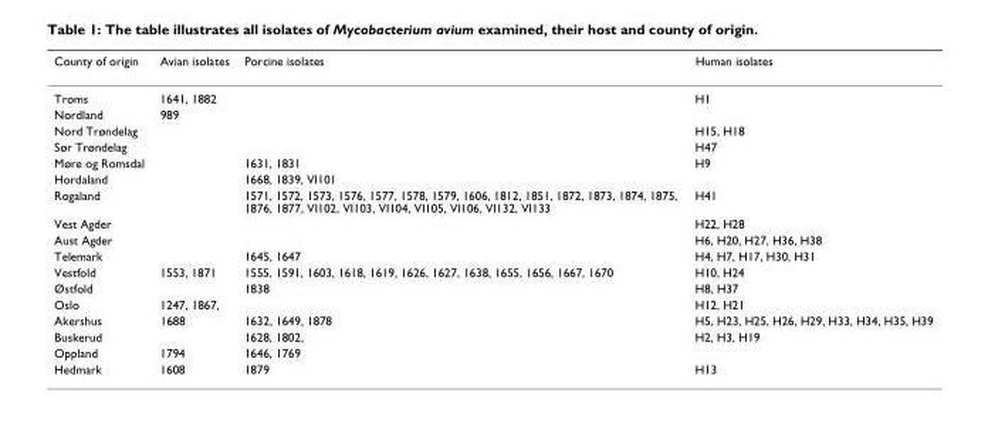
<table><thead><tr><td>County of origin</td><td>Avian isolates</td><td>Porcine isolates</td><td>Human isolates</td></tr></thead><tbody><tr><td>Troms</td><td>1641, 1882</td><td></td><td>H1</td></tr><tr><td>Nordland</td><td>989</td><td></td><td></td></tr><tr><td>Nord Trøndelag</td><td></td><td></td><td>H15, H18</td></tr><tr><td>Sør Trøndelag</td><td></td><td></td><td>H47</td></tr><tr><td>Møre og Romsdal</td><td></td><td>1631, 1831</td><td>H9</td></tr><tr><td>Hordaland</td><td></td><td>1668, 1839, VI101</td><td></td></tr><tr><td>Rogaland</td><td></td><td>1571, 1572, 1573, 1576, 1577, 1578, 1579, 1606, 1812, 1851, 1872, 1873, 1874, 1875, 1876, 1877, VI102, VI103, VI104, VI105, VI106, VI132, VI133</td><td>H41</td></tr><tr><td>Vest Agder</td><td></td><td></td><td>H22, H28</td></tr><tr><td>Aust Agder</td><td></td><td></td><td>H6, H20, H27, H36, H38</td></tr><tr><td>Telemark</td><td></td><td>1645, 1647</td><td>H4, H7, H17, H30, H31</td></tr><tr><td>Vestfold</td><td>1553, 1871</td><td>1555, 1591, 1603, 1618, 1619, 1626, 1627, 1638, 1655, 1656, 1667, 1670</td><td>H10, H24</td></tr><tr><td>Østfold</td><td></td><td>1838</td><td>H8, H37</td></tr><tr><td>Oslo</td><td>1247, 1867,</td><td></td><td>H12, H21</td></tr><tr><td>Akershus</td><td>1688</td><td>1632, 1649, 1878</td><td>H5, H23, H25, H26, H29, H33, H34, H35, H39</td></tr><tr><td>Buskerud</td><td></td><td>1628, 1802,</td><td>H2, H3, H19</td></tr><tr><td>Oppland</td><td>1794</td><td>1646, 1769</td><td></td></tr><tr><td>Hedmark</td><td>1608</td><td>1879</td><td>H13</td></tr></tbody></table>